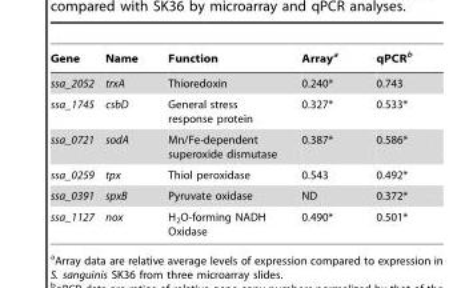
<table><thead><tr><td>Gene</td><td>Name</td><td>Function</td><td>Array<sup>a</sup></td><td>qPCR<sup>b</sup></td></tr></thead><tbody><tr><td>ssa_2052</td><td>trxA</td><td>Thioredoxin</td><td>0.240*</td><td>0.743</td></tr><tr><td>ssa_1745</td><td>csbD</td><td>General stress response protein</td><td>0.327*</td><td>0.533*</td></tr><tr><td>ssa_0721</td><td>sodA</td><td>Mn/Fe-dependent superoxide dismutase</td><td>0.387*</td><td>0.586*</td></tr><tr><td>ssa_0259</td><td>tpx</td><td>Thiol peroxidase</td><td>0.543</td><td>0.492*</td></tr><tr><td>ssa_0391</td><td>spxB</td><td>Pyruvate oxidase</td><td>ND</td><td>0.372*</td></tr><tr><td>ssa_1127</td><td>nox</td><td>H<sub>2</sub>O-forming NADH Oxidase</td><td>0.490*</td><td>0.501*</td></tr></tbody></table>